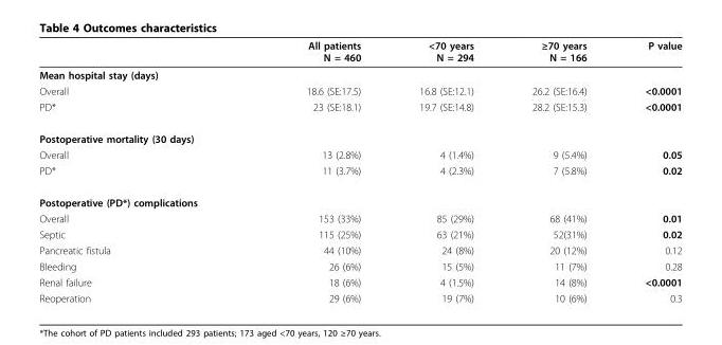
<table><thead><tr><td></td><td>All patients N = 460</td><td>&lt;70 years N = 294</td><td>≥70 years N = 166</td><td>P value</td></tr></thead><tbody><tr><td colspan="5">Mean hospital stay (days)</td></tr><tr><td>Overall</td><td>18.6 (SE:17.5)</td><td>16.8 (SE:12.1)</td><td>26.2 (SE:16.4)</td><td>&lt;0.0001</td></tr><tr><td>PD*</td><td>23 (SE:18.1)</td><td>19.7 (SE:14.8)</td><td>28.2 (SE:15.3)</td><td>&lt;0.0001</td></tr><tr><td colspan="5">Postoperative mortality (30 days)</td></tr><tr><td>Overall</td><td>13 (2.8%)</td><td>4 (1.4%)</td><td>9 (5.4%)</td><td>0.05</td></tr><tr><td>PD*</td><td>11 (3.7%)</td><td>4 (2.3%)</td><td>7 (5.8%)</td><td>0.02</td></tr><tr><td colspan="5">Postoperative (PD*) complications</td></tr><tr><td>Overall</td><td>153 (33%)</td><td>85 (29%)</td><td>68 (41%)</td><td>0.01</td></tr><tr><td>Septic</td><td>115 (25%)</td><td>63 (21%)</td><td>52(31%)</td><td>0.02</td></tr><tr><td>Pancreatic fistula</td><td>44 (10%)</td><td>24 (8%)</td><td>20 (12%)</td><td>0.12</td></tr><tr><td>Bleeding</td><td>26 (6%)</td><td>15 (5%)</td><td>11 (7%)</td><td>0.28</td></tr><tr><td>Renal failure</td><td>18 (6%)</td><td>4 (1.5%)</td><td>14 (8%)</td><td>&lt;0.0001</td></tr><tr><td>Reoperation</td><td>29 (6%)</td><td>19 (7%)</td><td>10 (6%)</td><td>0.3</td></tr></tbody></table>